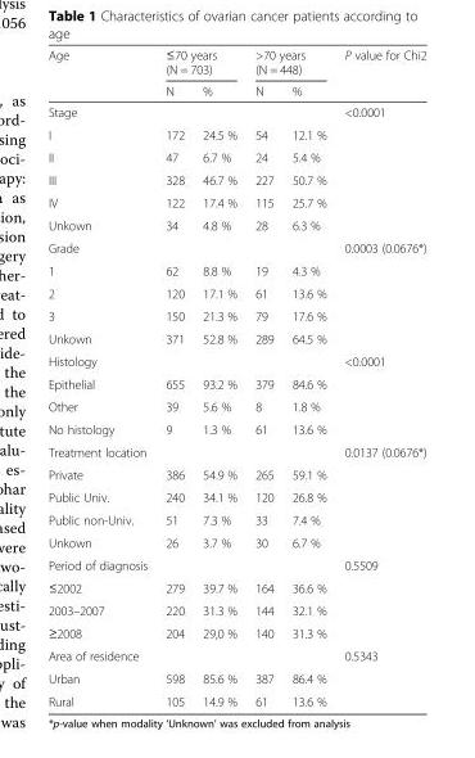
<table><thead><tr><td rowspan="2">Age</td><td colspan="2">≤70 years (N = 703)</td><td colspan="2">&gt;70 years (N = 448)</td><td rowspan="2">P value for Chi2</td></tr><tr><td>N</td><td>%</td><td>N</td><td>%</td></tr></thead><tbody><tr><td colspan="5">Stage</td><td rowspan="6">&lt;0.0001</td></tr><tr><td>I</td><td>172</td><td>24.5 %</td><td>54</td><td>12.1 %</td></tr><tr><td>II</td><td>47</td><td>6.7 %</td><td>24</td><td>5.4 %</td></tr><tr><td>III</td><td>328</td><td>46.7 %</td><td>227</td><td>50.7 %</td></tr><tr><td>IV</td><td>122</td><td>17.4 %</td><td>115</td><td>25.7 %</td></tr><tr><td>Unkown</td><td>34</td><td>4.8 %</td><td>28</td><td>6.3 %</td></tr><tr><td colspan="5">Grade</td><td rowspan="5">0.0003 (0.0676*)</td></tr><tr><td>1</td><td>62</td><td>8.8 %</td><td>19</td><td>4.3 %</td></tr><tr><td>2</td><td>120</td><td>17.1 %</td><td>61</td><td>13.6 %</td></tr><tr><td>3</td><td>150</td><td>21.3 %</td><td>79</td><td>17.6 %</td></tr><tr><td>Unkown</td><td>371</td><td>52.8 %</td><td>289</td><td>64.5 %</td></tr><tr><td colspan="5">Histology</td><td rowspan="4">&lt;0.0001</td></tr><tr><td>Epithelial</td><td>655</td><td>93.2 %</td><td>379</td><td>84.6 %</td></tr><tr><td>Other</td><td>39</td><td>5.6 %</td><td>8</td><td>1.8 %</td></tr><tr><td>No histology</td><td>9</td><td>1.3 %</td><td>61</td><td>13.6 %</td></tr><tr><td colspan="5">Treatment location</td><td rowspan="5">0.0137 (0.0676*)</td></tr><tr><td>Private</td><td>386</td><td>54.9 %</td><td>265</td><td>59.1 %</td></tr><tr><td>Public Univ.</td><td>240</td><td>34.1 %</td><td>120</td><td>26.8 %</td></tr><tr><td>Public non-Univ.</td><td>51</td><td>7.3 %</td><td>33</td><td>7.4 %</td></tr><tr><td>Unkown</td><td>26</td><td>3.7 %</td><td>30</td><td>6.7 %</td></tr><tr><td colspan="5">Period of diagnosis</td><td rowspan="4">0.5509</td></tr><tr><td>≤2002</td><td>279</td><td>39.7 %</td><td>164</td><td>36.6 %</td></tr><tr><td>2003–2007</td><td>220</td><td>31.3 %</td><td>144</td><td>32.1 %</td></tr><tr><td>≥2008</td><td>204</td><td>29,0 %</td><td>140</td><td>31.3 %</td></tr><tr><td colspan="5">Area of residence</td><td rowspan="3">0.5343</td></tr><tr><td>Urban</td><td>598</td><td>85.6 %</td><td>387</td><td>86.4 %</td></tr><tr><td>Rural</td><td>105</td><td>14.9 %</td><td>61</td><td>13.6 %</td></tr></tbody></table>